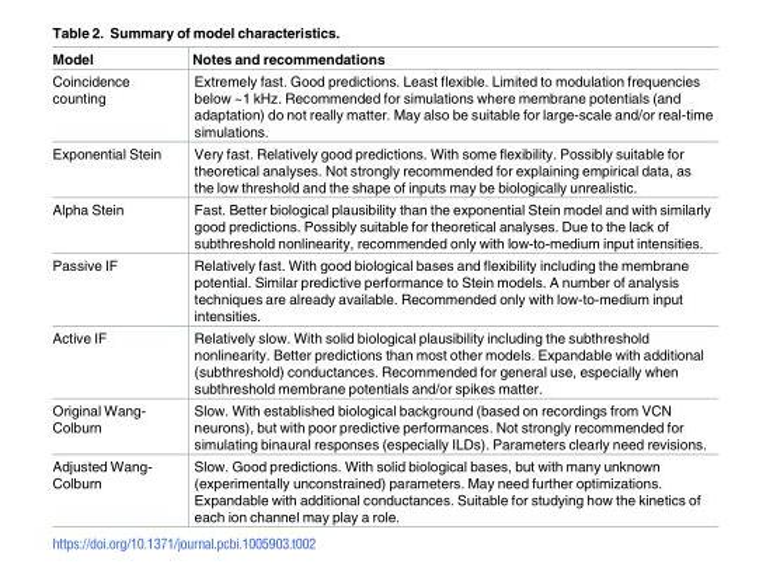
<table><thead><tr><td>Model</td><td>Notes and recommendations</td></tr></thead><tbody><tr><td>Coincidence counting</td><td>Extremely fast. Good predictions. Least flexible. Limited to modulation frequencies below ~1 kHz. Recommended for simulations where membrane potentials (and adaptation) do not really matter. May also be suitable for large-scale and/or real-time simulations.</td></tr><tr><td>Exponential Stein</td><td>Very fast. Relatively good predictions. With some flexibility. Possibly suitable for theoretical analyses. Not strongly recommended for explaining empirical data, as the low threshold and the shape of inputs may be biologically unrealistic.</td></tr><tr><td>Alpha Stein</td><td>Fast. Better biological plausibility than the exponential Stein model and with similarly good predictions. Possibly suitable for theoretical analyses. Due to the lack of subthreshold nonlinearity, recommended only with low-to-medium input intensities.</td></tr><tr><td>Passive IF</td><td>Relatively fast. With good biological bases and flexibility including the membrane potential. Similar predictive performance to Stein models. A number of analysis techniques are already available. Recommended only with low-to-medium input intensities.</td></tr><tr><td>Active IF</td><td>Relatively slow. With solid biological plausibility including the subthreshold nonlinearity. Better predictions than most other models. Expandable with additional (subthreshold) conductances. Recommended for general use, especially when subthreshold membrane potentials and/or spikes matter.</td></tr><tr><td>Original Wang- Colburn</td><td>Slow. With established biological background (based on recordings from VCN neurons), but with poor predictive performances. Not strongly recommended for simulating binaural responses (especially ILDs). Parameters clearly need revisions.</td></tr><tr><td>Adjusted Wang- Colburn</td><td>Slow. Good predictions. With solid biological bases, but with many unknown (experimentally unconstrained) parameters. May need further optimizations. Expandable with additional conductances. Suitable for studying how the kinetics of each ion channel may play a role.</td></tr></tbody></table>